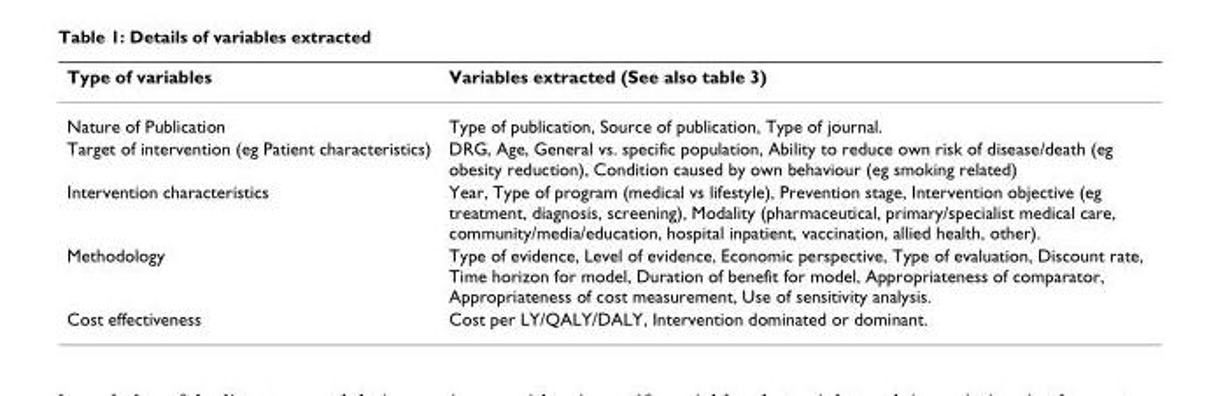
<table><thead><tr><td>Type of variables</td><td>Variables extracted (See also table 3)</td></tr></thead><tbody><tr><td>Nature of Publication</td><td>Type of publication, Source of publication, Type of journal.</td></tr><tr><td>Target of intervention (eg Patient characteristics)</td><td>DRG, Age, General vs. specific population, Ability to reduce own risk of disease/death (eg obesity reduction), Condition caused by own behaviour (eg smoking related)</td></tr><tr><td>Intervention characteristics</td><td>Year, Type of program (medical vs lifestyle), Prevention stage, Intervention objective (eg treatment, diagnosis, screening), Modality (pharmaceutical, primary/specialist medical care, community/media/education, hospital inpatient, vaccination, allied health, other).</td></tr><tr><td>Methodology</td><td>Type of evidence, Level of evidence, Economic perspective, Type of evaluation, Discount rate, Time horizon for model, Duration of benefit for model, Appropriateness of comparator, Appropriateness of cost measurement, Use of sensitivity analysis.</td></tr><tr><td>Cost effectiveness</td><td>Cost per LY/QALY/DALY, Intervention dominated or dominant.</td></tr></tbody></table>